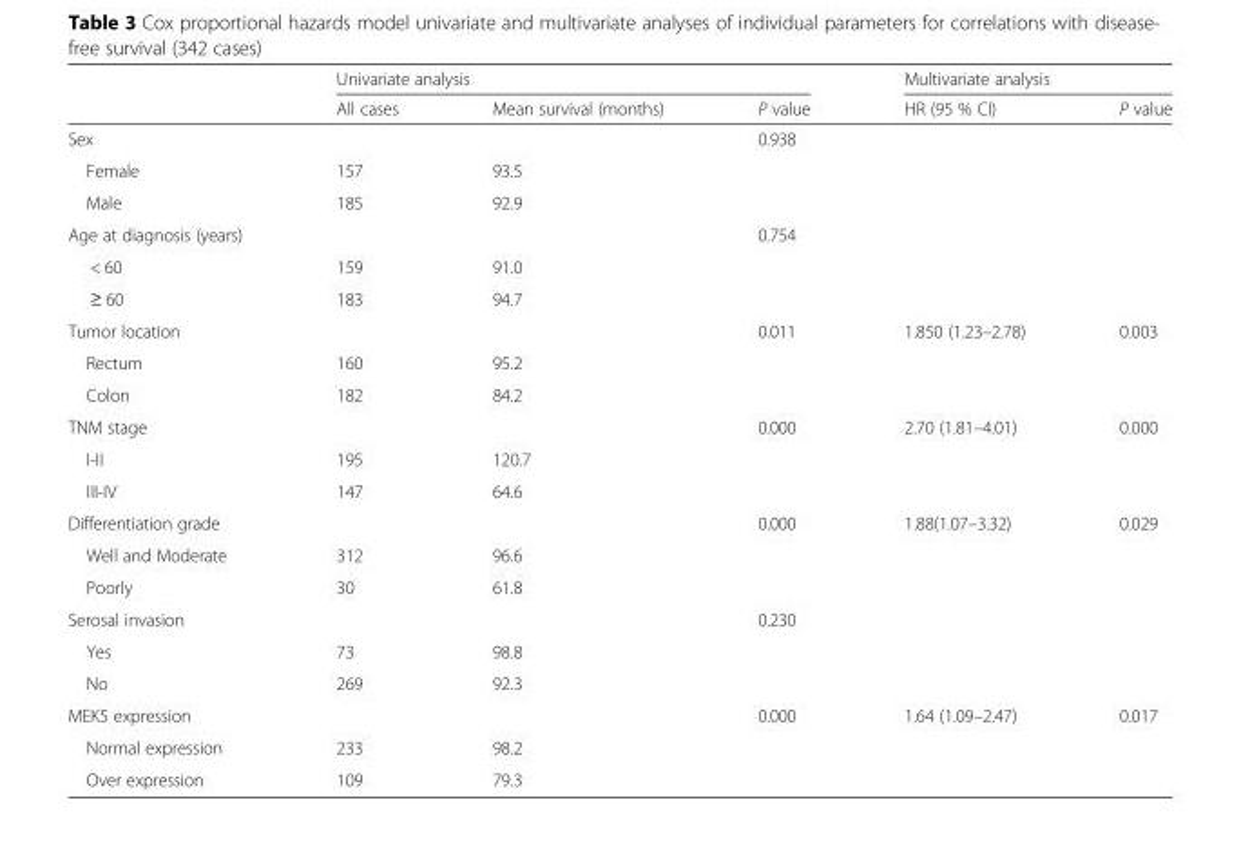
<table><thead><tr><td rowspan="2"></td><td colspan="3">Univariate analysis</td><td colspan="2">Multivariate analysis</td></tr><tr><td>All cases</td><td>Mean survival (months)</td><td>P value</td><td>HR (95 % CI)</td><td>P value</td></tr></thead><tbody><tr><td>Sex</td><td></td><td></td><td>0.938</td><td></td><td></td></tr><tr><td>Female</td><td>157</td><td>93.5</td><td></td><td></td><td></td></tr><tr><td>Male</td><td>185</td><td>92.9</td><td></td><td></td><td></td></tr><tr><td>Age at diagnosis (years)</td><td></td><td></td><td>0.754</td><td></td><td></td></tr><tr><td>&lt; 60</td><td>159</td><td>91.0</td><td></td><td></td><td></td></tr><tr><td>≥ 60</td><td>183</td><td>94.7</td><td></td><td></td><td></td></tr><tr><td>Tumor location</td><td></td><td></td><td>0.011</td><td>1.850 (1.23–2.78)</td><td>0.003</td></tr><tr><td>Rectum</td><td>160</td><td>95.2</td><td></td><td></td><td></td></tr><tr><td>Colon</td><td>182</td><td>84.2</td><td></td><td></td><td></td></tr><tr><td>TNM stage</td><td></td><td></td><td>0.000</td><td>2.70 (1.81–4.01)</td><td>0.000</td></tr><tr><td>I-II</td><td>195</td><td>120.7</td><td></td><td></td><td></td></tr><tr><td>III-IV</td><td>147</td><td>64.6</td><td></td><td></td><td></td></tr><tr><td>Differentiation grade</td><td></td><td></td><td>0.000</td><td>1.88(1.07–3.32)</td><td>0.029</td></tr><tr><td>Well and Moderate</td><td>312</td><td>96.6</td><td></td><td></td><td></td></tr><tr><td>Poorly</td><td>30</td><td>61.8</td><td></td><td></td><td></td></tr><tr><td>Serosal invasion</td><td></td><td></td><td>0.230</td><td></td><td></td></tr><tr><td>Yes</td><td>73</td><td>98.8</td><td></td><td></td><td></td></tr><tr><td>No</td><td>269</td><td>92.3</td><td></td><td></td><td></td></tr><tr><td>MEK5 expression</td><td></td><td></td><td>0.000</td><td>1.64 (1.09–2.47)</td><td>0.017</td></tr><tr><td>Normal expression</td><td>233</td><td>98.2</td><td></td><td></td><td></td></tr><tr><td>Over expression</td><td>109</td><td>79.3</td><td></td><td></td><td></td></tr></tbody></table>